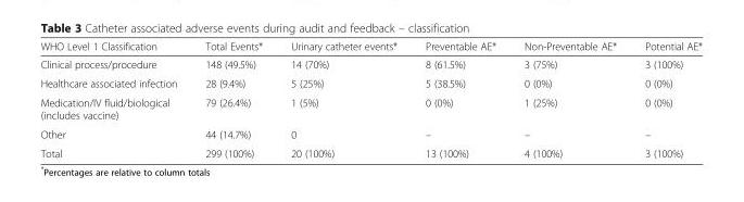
<table><thead><tr><td>WHO Level 1 Classification</td><td>Total Events*</td><td>Urinary catheter events*</td><td>Preventable AE*</td><td>Non-Preventable AE*</td><td>Potential AE*</td></tr></thead><tbody><tr><td>Clinical process/procedure</td><td>148 (49.5%)</td><td>14 (70%)</td><td>8 (61.5%)</td><td>3 (75%)</td><td>3 (100%)</td></tr><tr><td>Healthcare associated infection</td><td>28 (9.4%)</td><td>5 (25%)</td><td>5 (38.5%)</td><td>0 (0%)</td><td>0 (0%)</td></tr><tr><td>Medication/IV fluid/biological (includes vaccine)</td><td>79 (26.4%)</td><td>1 (5%)</td><td>0 (0%)</td><td>1 (25%)</td><td>0 (0%)</td></tr><tr><td>Other</td><td>44 (14.7%)</td><td>0</td><td>–</td><td>–</td><td>–</td></tr><tr><td>Total</td><td>299 (100%)</td><td>20 (100%)</td><td>13 (100%)</td><td>4 (100%)</td><td>3 (100%)</td></tr></tbody></table>